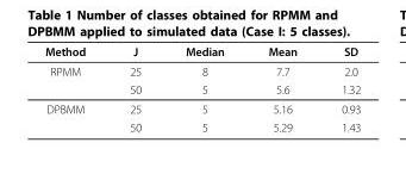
<table><thead><tr><td>Method</td><td>J</td><td>Median</td><td>Mean</td><td>SD</td></tr></thead><tbody><tr><td rowspan="2">RPMM</td><td>25</td><td>8</td><td>7.7</td><td>2.0</td></tr><tr><td>50</td><td>5</td><td>5.6</td><td>1.32</td></tr><tr><td rowspan="2">DPBMM</td><td>25</td><td>5</td><td>5.16</td><td>0.93</td></tr><tr><td>50</td><td>5</td><td>5.29</td><td>1.43</td></tr></tbody></table>